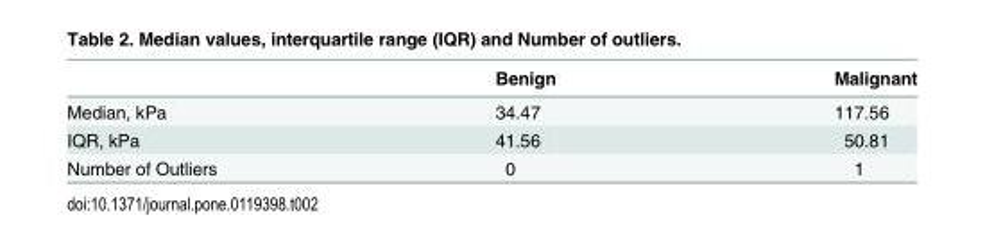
<table><thead><tr><td></td><td>Benign</td><td>Malignant</td></tr></thead><tbody><tr><td>Median, kPa</td><td>34.47</td><td>117.56</td></tr><tr><td>IQR, kPa</td><td>41.56</td><td>50.81</td></tr><tr><td>Number of Outliers</td><td>0</td><td>1</td></tr></tbody></table>